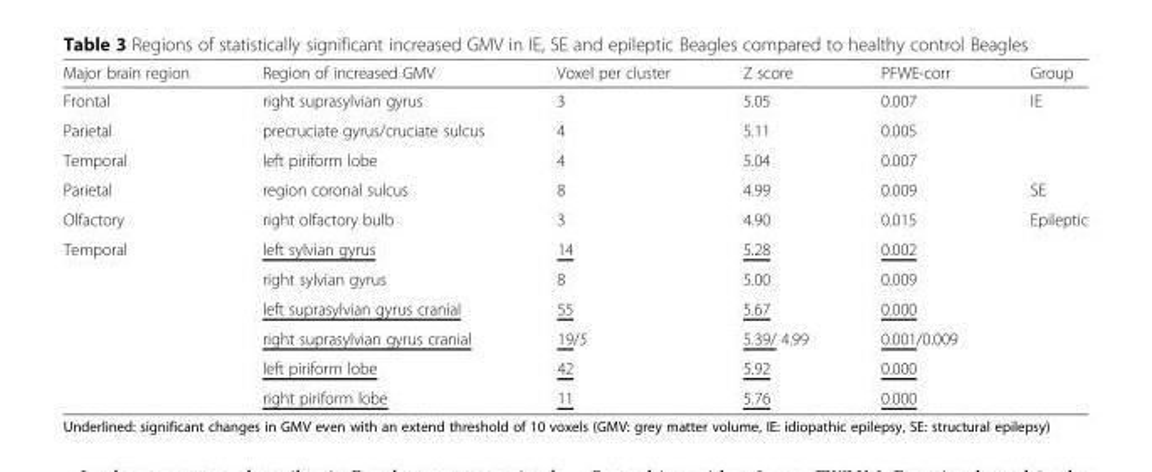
<table><thead><tr><td>Major brain region</td><td>Region of increased GMV</td><td>Voxel per cluster</td><td>Z score</td><td>PFWE-corr</td><td>Group</td></tr></thead><tbody><tr><td>Frontal</td><td>right suprasylvian gyrus</td><td>3</td><td>5.05</td><td>0.007</td><td>IE</td></tr><tr><td>Parietal</td><td>precruciate gyrus/cruciate sulcus</td><td>4</td><td>5.11</td><td>0.005</td><td></td></tr><tr><td>Temporal</td><td>left piriform lobe</td><td>4</td><td>5.04</td><td>0.007</td><td></td></tr><tr><td>Parietal</td><td>region coronal sulcus</td><td>8</td><td>4.99</td><td>0.009</td><td>SE</td></tr><tr><td>Olfactory</td><td>right olfactory bulb</td><td>3</td><td>4.90</td><td>0.015</td><td>Epileptic</td></tr><tr><td rowspan="6">Temporal</td><td>left sylvian gyrus</td><td>14</td><td>5.28</td><td>0.002</td><td></td></tr><tr><td>right sylvian gyrus</td><td>8</td><td>5.00</td><td>0.009</td><td></td></tr><tr><td>left suprasylvian gyrus cranial</td><td>55</td><td>5.67</td><td>0.000</td><td></td></tr><tr><td>right suprasylvian gyrus cranial</td><td>19/5</td><td>5.39/ 4.99</td><td>0.001/0.009</td><td></td></tr><tr><td>left piriform lobe</td><td>42</td><td>5.92</td><td>0.000</td><td></td></tr><tr><td>right piriform lobe</td><td>11</td><td>5.76</td><td>0.000</td><td></td></tr></tbody></table>